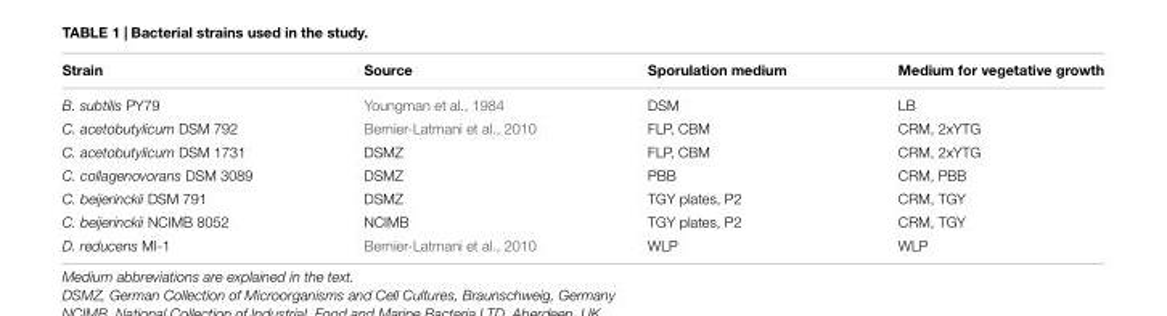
<table><thead><tr><td>Strain</td><td>Source</td><td>Sporulation medium</td><td>Medium for vegetative growth</td></tr></thead><tbody><tr><td>B. subtilis PY79</td><td>Youngman et al., 1984</td><td>DSM</td><td>LB</td></tr><tr><td>C. acetobutylicum DSM 792</td><td>Bernier-Latmani et al., 2010</td><td>FLP, CBM</td><td>CRM, 2xYTG</td></tr><tr><td>C. acetobutylicum DSM 1731</td><td>DSMZ</td><td>FLP, CBM</td><td>CRM, 2xYTG</td></tr><tr><td>C. collagenovorans DSM 3089</td><td>DSMZ</td><td>PBB</td><td>CRM, PBB</td></tr><tr><td>C. beijerinckii DSM 791</td><td>DSMZ</td><td>TGY plates, P2</td><td>CRM, TGY</td></tr><tr><td>C. beijerinckii NCIMB 8052</td><td>NCIMB</td><td>TGY plates, P2</td><td>CRM, TGY</td></tr><tr><td>D. reducens MI-1</td><td>Bernier-Latmani et al., 2010</td><td>WLP</td><td>WLP</td></tr></tbody></table>